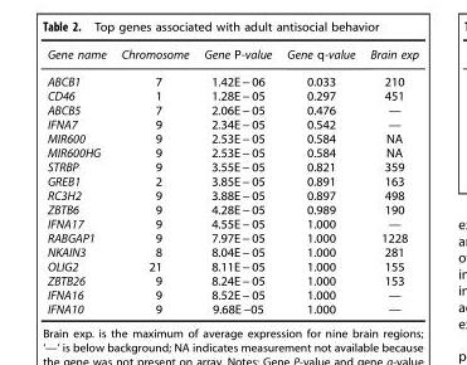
<table><thead><tr><td>Gene name</td><td>Chromosome</td><td>Gene P-value</td><td>Gene q-value</td><td>Brain exp</td></tr></thead><tbody><tr><td>ABCB1</td><td>7</td><td>1.42E − 06</td><td>0.033</td><td>210</td></tr><tr><td>CD46</td><td>1</td><td>1.28E − 05</td><td>0.297</td><td>451</td></tr><tr><td>ABCB5</td><td>7</td><td>2.06E − 05</td><td>0.476</td><td>—</td></tr><tr><td>IFNA7</td><td>9</td><td>2.34E − 05</td><td>0.542</td><td>—</td></tr><tr><td>MIR600</td><td>9</td><td>2.53E − 05</td><td>0.584</td><td>NA</td></tr><tr><td>MIR600HG</td><td>9</td><td>2.53E − 05</td><td>0.584</td><td>NA</td></tr><tr><td>STRBP</td><td>9</td><td>3.55E − 05</td><td>0.821</td><td>359</td></tr><tr><td>GREB1</td><td>2</td><td>3.85E − 05</td><td>0.891</td><td>163</td></tr><tr><td>RC3H2</td><td>9</td><td>3.88E − 05</td><td>0.897</td><td>498</td></tr><tr><td>ZBTB6</td><td>9</td><td>4.28E − 05</td><td>0.989</td><td>190</td></tr><tr><td>IFNA17</td><td>9</td><td>4.55E − 05</td><td>1.000</td><td>—</td></tr><tr><td>RABGAP1</td><td>9</td><td>7.97E − 05</td><td>1.000</td><td>1228</td></tr><tr><td>NKAIN3</td><td>8</td><td>8.04E − 05</td><td>1.000</td><td>281</td></tr><tr><td>OLIG2</td><td>21</td><td>8.11E − 05</td><td>1.000</td><td>155</td></tr><tr><td>ZBTB26</td><td>9</td><td>8.24E − 05</td><td>1.000</td><td>153</td></tr><tr><td>IFNA16</td><td>9</td><td>8.52E − 05</td><td>1.000</td><td>—</td></tr><tr><td>IFNA10</td><td>9</td><td>9.68E −05</td><td>1.000</td><td>—</td></tr></tbody></table>